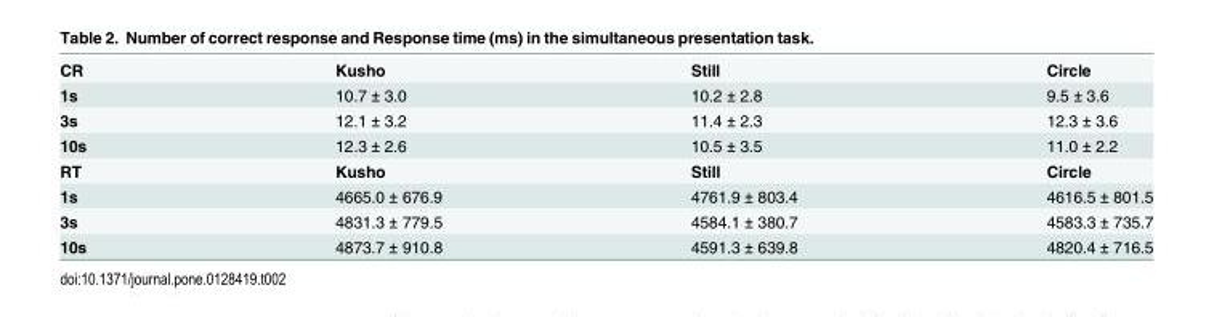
<table><tbody><tr><td>CR</td><td>Kusho</td><td>Still</td><td>Circle</td></tr><tr><td>1s</td><td>10.7 ± 3.0</td><td>10.2 ± 2.8</td><td>9.5 ± 3.6</td></tr><tr><td>3s</td><td>12.1 ± 3.2</td><td>11.4 ± 2.3</td><td>12.3 ± 3.6</td></tr><tr><td>10s</td><td>12.3 ± 2.6</td><td>10.5 ± 3.5</td><td>11.0 ± 2.2</td></tr><tr><td>RT</td><td>Kusho</td><td>Still</td><td>Circle</td></tr><tr><td>1s</td><td>4665.0 ± 676.9</td><td>4761.9 ± 803.4</td><td>4616.5 ± 801.5</td></tr><tr><td>3s</td><td>4831.3 ± 779.5</td><td>4584.1 ± 380.7</td><td>4583.3 ± 735.7</td></tr><tr><td>10s</td><td>4873.7 ± 910.8</td><td>4591.3 ± 639.8</td><td>4820.4 ± 716.5</td></tr></tbody></table>